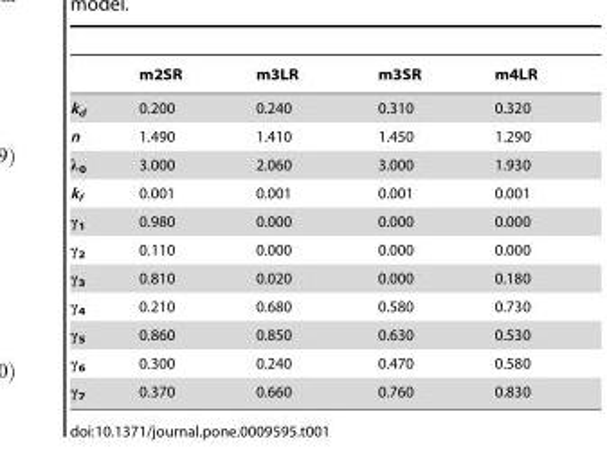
<table><thead><tr><td></td><td>m2SR</td><td>m3LR</td><td>m3SR</td><td>m4LR</td></tr></thead><tbody><tr><td>k<sub>d</sub></td><td>0.200</td><td>0.240</td><td>0.310</td><td>0.320</td></tr><tr><td>n</td><td>1.490</td><td>1.410</td><td>1.450</td><td>1.290</td></tr><tr><td>λ<sub>0</sub></td><td>3.000</td><td>2.060</td><td>3.000</td><td>1.930</td></tr><tr><td>k<sub>f</sub></td><td>0.001</td><td>0.001</td><td>0.001</td><td>0.001</td></tr><tr><td>γ<sub>1</sub></td><td>0.980</td><td>0.000</td><td>0.000</td><td>0.000</td></tr><tr><td>γ<sub>2</sub></td><td>0.110</td><td>0.000</td><td>0.000</td><td>0.000</td></tr><tr><td>γ<sub>3</sub></td><td>0.810</td><td>0.020</td><td>0.000</td><td>0.180</td></tr><tr><td>γ<sub>4</sub></td><td>0.210</td><td>0.680</td><td>0.580</td><td>0.730</td></tr><tr><td>γ<sub>5</sub></td><td>0.860</td><td>0.850</td><td>0.630</td><td>0.530</td></tr><tr><td>γ<sub>6</sub></td><td>0.300</td><td>0.240</td><td>0.470</td><td>0.580</td></tr><tr><td>γ<sub>7</sub></td><td>0.370</td><td>0.660</td><td>0.760</td><td>0.830</td></tr></tbody></table>